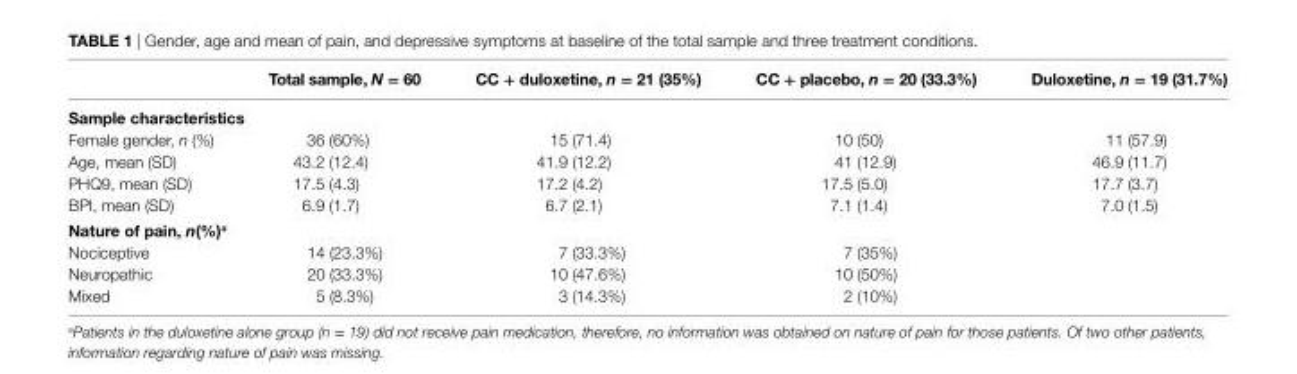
<table><thead><tr><td></td><td>Total sample, N = 60</td><td>CC + duloxetine, n = 21 (35%)</td><td>CC + placebo, n = 20 (33.3%)</td><td>Duloxetine, n = 19 (31.7%)</td></tr></thead><tbody><tr><td colspan="5">Sample characteristics</td></tr><tr><td>Female gender, n (%)</td><td>36 (60%)</td><td>15 (71.4)</td><td>10 (50)</td><td>11 (57.9)</td></tr><tr><td>Age, mean (SD)</td><td>43.2 (12.4)</td><td>41.9 (12.2)</td><td>41 (12.9)</td><td>46.9 (11.7)</td></tr><tr><td>PHQ9, mean (SD)</td><td>17.5 (4.3)</td><td>17.2 (4.2)</td><td>17.5 (5.0)</td><td>17.7 (3.7)</td></tr><tr><td>BPI, mean (SD)</td><td>6.9 (1.7)</td><td>6.7 (2.1)</td><td>7.1 (1.4)</td><td>7.0 (1.5)</td></tr><tr><td colspan="5">nature of pain, n(%)<sup>a</sup></td></tr><tr><td>Nociceptive Neuropathic Mixed</td><td>14 (23.3%) 20 (33.3%) 5 (8.3%)</td><td>7 (33.3%) 10 (47.6%) 3 (14.3%)</td><td>7 (35%) 10 (50%) 2 (10%)</td><td></td></tr></tbody></table>